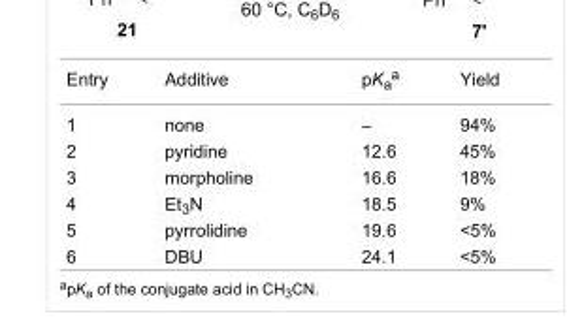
<table><tbody><tr><td>Entry</td><td>Additive</td><td>pK<sub>a</sub><sup>a</sup></td><td>Yield</td></tr><tr><td>1</td><td>none</td><td>–</td><td>94%</td></tr><tr><td>2</td><td>pyridine</td><td>12.6</td><td>45%</td></tr><tr><td>3</td><td>morpholine</td><td>16.6</td><td>18%</td></tr><tr><td>4</td><td>Et<sub>3</sub>N</td><td>18.5</td><td>9%</td></tr><tr><td>5</td><td>pyrrolidine</td><td>19.6</td><td>&lt;5%</td></tr><tr><td>6</td><td>DBU</td><td>24.1</td><td>&lt;5%</td></tr></tbody></table>